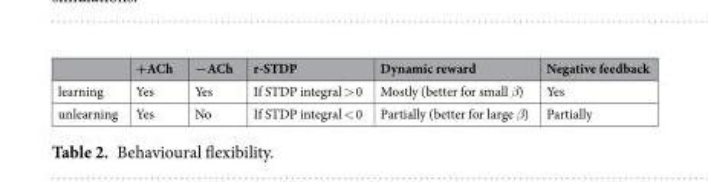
<table><thead><tr><td></td><td>+ACh</td><td>−ACh</td><td>r-STDP</td><td>Dynamic reward</td><td>Negative feedback</td></tr></thead><tbody><tr><td>learning</td><td>Yes</td><td>Yes</td><td>If STDP integral &gt; 0</td><td>Mostly (better for small β)</td><td>Yes</td></tr><tr><td>unlearning</td><td>Yes</td><td>No</td><td>If STDP integral &lt; 0</td><td>Partially (better for large β)</td><td>Partially</td></tr></tbody></table>